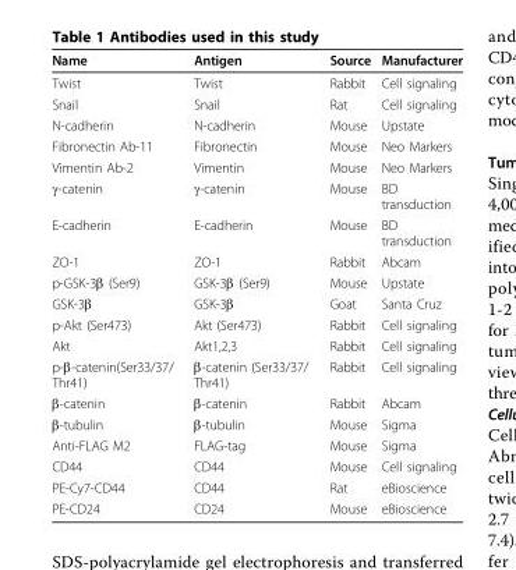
<table><thead><tr><td>Name</td><td>Antigen</td><td>Source</td><td>Manufacturer</td></tr></thead><tbody><tr><td>Twist</td><td>Twist</td><td>Rabbit</td><td>Cell signaling</td></tr><tr><td>Snail</td><td>Snail</td><td>Rat</td><td>Cell signaling</td></tr><tr><td>N-cadherin</td><td>N-cadherin</td><td>Mouse</td><td>Upstate</td></tr><tr><td>Fibronectin Ab-11</td><td>Fibronectin</td><td>Mouse</td><td>Neo Markers</td></tr><tr><td>Vimentin Ab-2</td><td>Vimentin</td><td>Mouse</td><td>Neo Markers</td></tr><tr><td>γ-catenin</td><td>γ-catenin</td><td>Mouse</td><td>BD transduction</td></tr><tr><td>E-cadherin</td><td>E-cadherin</td><td>Mouse</td><td>BD transduction</td></tr><tr><td>ZO-1</td><td>ZO-1</td><td>Rabbit</td><td>Abcam</td></tr><tr><td>p-GSK-3β (Ser9)</td><td>GSK-3β (Ser9)</td><td>Mouse</td><td>Upstate</td></tr><tr><td>GSK-3β</td><td>GSK-3β</td><td>Goat</td><td>Santa Cruz</td></tr><tr><td>p-Akt (Ser473)</td><td>Akt (Ser473)</td><td>Rabbit</td><td>Cell signaling</td></tr><tr><td>Akt</td><td>Akt1,2,3</td><td>Rabbit</td><td>Cell signaling</td></tr><tr><td>p-β-catenin(Ser33/37/ Thr41)</td><td>β-catenin (Ser33/37/ Thr41)</td><td>Rabbit</td><td>Cell signaling</td></tr><tr><td>β-catenin</td><td>β-catenin</td><td>Rabbit</td><td>Abcam</td></tr><tr><td>β-tubulin</td><td>β-tubulin</td><td>Mouse</td><td>Sigma</td></tr><tr><td>Anti-FLAG M2</td><td>FLAG-tag</td><td>Mouse</td><td>Sigma</td></tr><tr><td>CD44</td><td>CD44</td><td>Mouse</td><td>Cell signaling</td></tr><tr><td>PE-Cy7-CD44</td><td>CD44</td><td>Rat</td><td>eBioscience</td></tr><tr><td>PE-CD24</td><td>CD24</td><td>Mouse</td><td>eBioscience</td></tr></tbody></table>